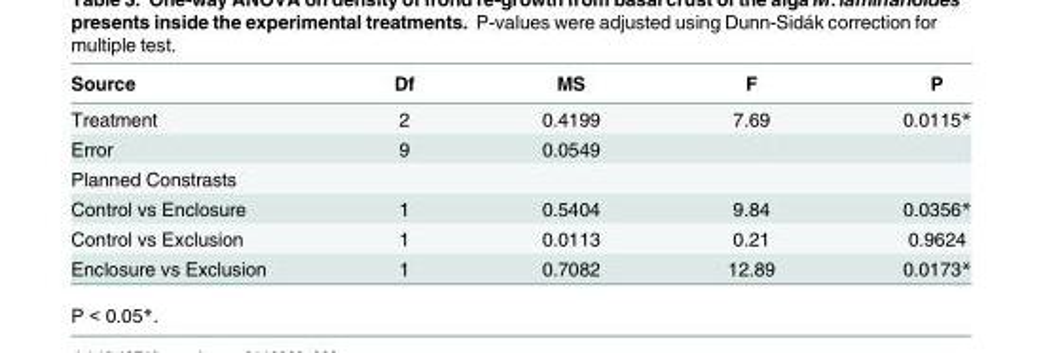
<table><thead><tr><td>Source</td><td>Df</td><td>MS</td><td>F</td><td>P</td></tr></thead><tbody><tr><td>Treatment</td><td>2</td><td>0.4199</td><td>7.69</td><td>0.0115*</td></tr><tr><td>Error</td><td>9</td><td>0.0549</td><td></td><td></td></tr><tr><td colspan="5">Planned Constrasts</td></tr><tr><td>Control vs Enclosure</td><td>1</td><td>0.5404</td><td>9.84</td><td>0.0356*</td></tr><tr><td>Control vs Exclusion</td><td>1</td><td>0.0113</td><td>0.21</td><td>0.9624</td></tr><tr><td>Enclosure vs Exclusion</td><td>1</td><td>0.7082</td><td>12.89</td><td>0.0173*</td></tr></tbody></table>